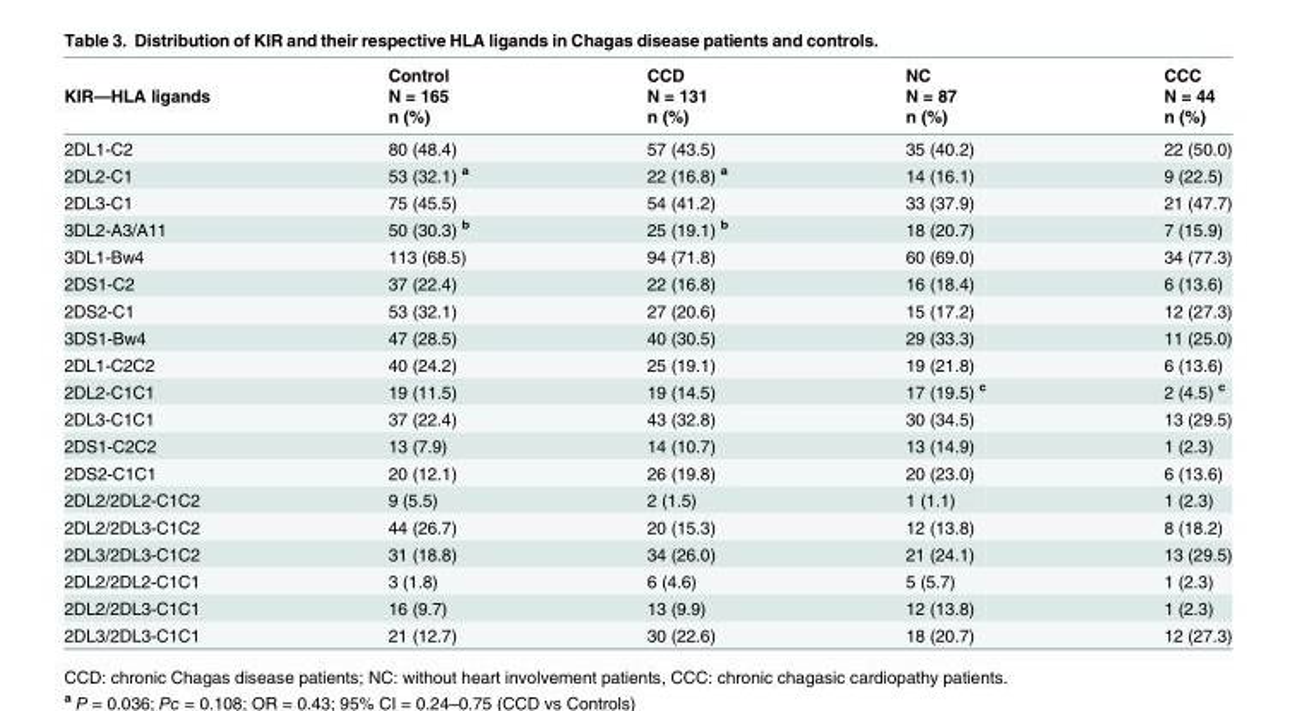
<table><thead><tr><td rowspan="3">KIR—HLA ligands</td><td rowspan="3">Control N = 165 n (%)</td><td rowspan="3">CCD N = 131 n (%)</td><td rowspan="3">NC N = 87 n (%)</td><td rowspan="3">CCC N = 44 n (%)</td></tr><tr></tr><tr></tr></thead><tbody><tr><td>2DL1-C2</td><td>80 (48.4)</td><td>57 (43.5)</td><td>35 (40.2)</td><td>22 (50.0)</td></tr><tr><td>2DL2-C1</td><td>53 (32.1) <sup>a</sup></td><td>22 (16.8) <sup>a</sup></td><td>14 (16.1)</td><td>9 (22.5)</td></tr><tr><td>2DL3-C1</td><td>75 (45.5)</td><td>54 (41.2)</td><td>33 (37.9)</td><td>21 (47.7)</td></tr><tr><td>3DL2-A3/A11</td><td>50 (30.3) <sup>b</sup></td><td>25 (19.1) <sup>b</sup></td><td>18 (20.7)</td><td>7 (15.9)</td></tr><tr><td>3DL1-Bw4</td><td>113 (68.5)</td><td>94 (71.8)</td><td>60 (69.0)</td><td>34 (77.3)</td></tr><tr><td>2DS1-C2</td><td>37 (22.4)</td><td>22 (16.8)</td><td>16 (18.4)</td><td>6 (13.6)</td></tr><tr><td>2DS2-C1</td><td>53 (32.1)</td><td>27 (20.6)</td><td>15 (17.2)</td><td>12 (27.3)</td></tr><tr><td>3DS1-Bw4</td><td>47 (28.5)</td><td>40 (30.5)</td><td>29 (33.3)</td><td>11 (25.0)</td></tr><tr><td>2DL1-C2C2</td><td>40 (24.2)</td><td>25 (19.1)</td><td>19 (21.8)</td><td>6 (13.6)</td></tr><tr><td>2DL2-C1C1</td><td>19 (11.5)</td><td>19 (14.5)</td><td>17 (19.5) <sup>c</sup></td><td>2 (4.5) <sup>c</sup></td></tr><tr><td>2DL3-C1C1</td><td>37 (22.4)</td><td>43 (32.8)</td><td>30 (34.5)</td><td>13 (29.5)</td></tr><tr><td>2DS1-C2C2</td><td>13 (7.9)</td><td>14 (10.7)</td><td>13 (14.9)</td><td>1 (2.3)</td></tr><tr><td>2DS2-C1C1</td><td>20 (12.1)</td><td>26 (19.8)</td><td>20 (23.0)</td><td>6 (13.6)</td></tr><tr><td>2DL2/2DL2-C1C2</td><td>9 (5.5)</td><td>2 (1.5)</td><td>1 (1.1)</td><td>1 (2.3)</td></tr><tr><td>2DL2/2DL3-C1C2</td><td>44 (26.7)</td><td>20 (15.3)</td><td>12 (13.8)</td><td>8 (18.2)</td></tr><tr><td>2DL3/2DL3-C1C2</td><td>31 (18.8)</td><td>34 (26.0)</td><td>21 (24.1)</td><td>13 (29.5)</td></tr><tr><td>2DL2/2DL2-C1C1</td><td>3 (1.8)</td><td>6 (4.6)</td><td>5 (5.7)</td><td>1 (2.3)</td></tr><tr><td>2DL2/2DL3-C1C1</td><td>16 (9.7)</td><td>13 (9.9)</td><td>12 (13.8)</td><td>1 (2.3)</td></tr><tr><td>2DL3/2DL3-C1C1</td><td>21 (12.7)</td><td>30 (22.6)</td><td>18 (20.7)</td><td>12 (27.3)</td></tr></tbody></table>